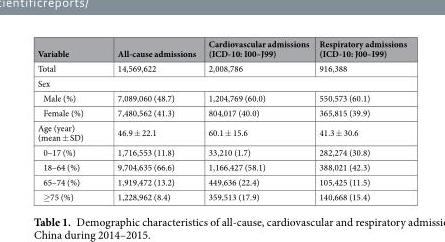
<table><thead><tr><td>Variable</td><td>All-cause admissions</td><td>Cardiovascular admissions (ICD-10: I00–J99)</td><td>Respiratory admissions (ICD-10: J00–I99)</td></tr></thead><tbody><tr><td>Total</td><td>14,569,622</td><td>2,008,786</td><td>916,388</td></tr><tr><td colspan="4">Sex</td></tr><tr><td>Male (%)</td><td>7,089,060 (48.7)</td><td>1,204,769 (60.0)</td><td>550,573 (60.1)</td></tr><tr><td>Female (%)</td><td>7,480,562 (41.3)</td><td>804,017 (40.0)</td><td>365,815 (39.9)</td></tr><tr><td>Age (year) (mean ± SD)</td><td>46.9 ± 22.1</td><td>60.1 ± 15.6</td><td>41.3 ± 30.6</td></tr><tr><td>0–17 (%)</td><td>1,716,553 (11.8)</td><td>33,210 (1.7)</td><td>282,274 (30.8)</td></tr><tr><td>18–64 (%)</td><td>9,704,635 (66.6)</td><td>1,166,427 (58.1)</td><td>388,021 (42.3)</td></tr><tr><td>65–74 (%)</td><td>1,919,472 (13.2)</td><td>449,636 (22.4)</td><td>105,425 (11.5)</td></tr><tr><td>≥75 (%)</td><td>1,228,962 (8.4)</td><td>359,513 (17.9)</td><td>140,668 (15.4)</td></tr></tbody></table>